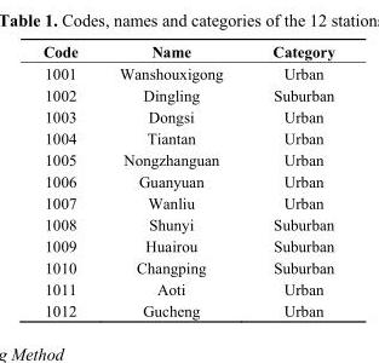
<table><thead><tr><td>Code</td><td>Name</td><td>Category</td></tr></thead><tbody><tr><td>1001</td><td>Wanshouxigong</td><td>Urban</td></tr><tr><td>1002</td><td>Dingling</td><td>Suburban</td></tr><tr><td>1003</td><td>Dongsi</td><td>Urban</td></tr><tr><td>1004</td><td>Tiantan</td><td>Urban</td></tr><tr><td>1005</td><td>Nongzhanguan</td><td>Urban</td></tr><tr><td>1006</td><td>Guanyuan</td><td>Urban</td></tr><tr><td>1007</td><td>Wanliu</td><td>Urban</td></tr><tr><td>1008</td><td>Shunyi</td><td>Suburban</td></tr><tr><td>1009</td><td>Huairou</td><td>Suburban</td></tr><tr><td>1010</td><td>Changping</td><td>Suburban</td></tr><tr><td>1011</td><td>Aoti</td><td>Urban</td></tr><tr><td>1012</td><td>Gucheng</td><td>Urban</td></tr></tbody></table>